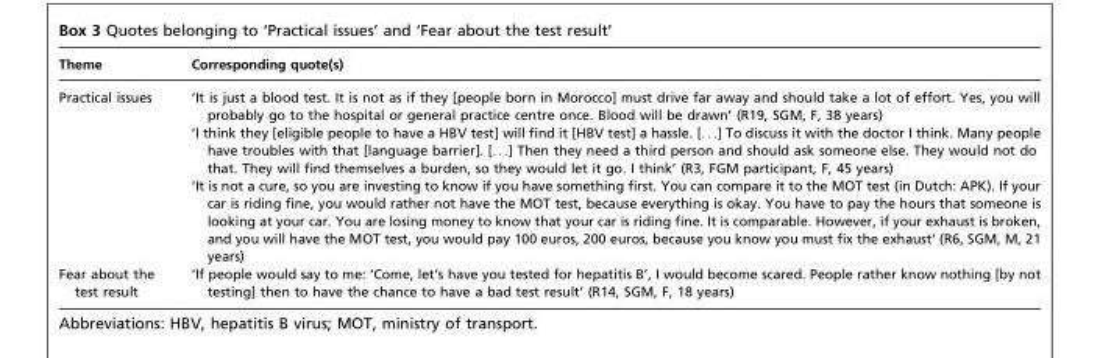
<table><thead><tr><td>Theme</td><td>Corresponding quote(s)</td></tr></thead><tbody><tr><td rowspan="3">Practical issues</td><td>‘It is just a blood test. It is not as if they [people born in Morocco] must drive far away and should take a lot of effort. Yes, you will probably go to the hospital or general practice centre once. Blood will be drawn’ (R19, SGM, F, 38 years)</td></tr><tr><td>‘I think they [eligible people to have a HBV test] will find it [HBV test] a hassle. [. . .] To discuss it with the doctor I think. Many people have troubles with that [language barrier]. [. . .] Then they need a third person and should ask someone else. They would not do that. They will find themselves a burden, so they would let it go. I think’ (R3, FGM participant, F, 45 years)</td></tr><tr><td>‘It is not a cure, so you are investing to know if you have something first. You can compare it to the MOT test (in Dutch: APK). If your car is riding fine, you would rather not have the MOT test, because everything is okay. You have to pay the hours that someone is looking at your car. You are losing money to know that your car is riding fine. It is comparable. However, if your exhaust is broken, and you will have the MOT test, you would pay 100 euros, 200 euros, because you know you must fix the exhaust’ (R6, SGM, M, 21 years)</td></tr><tr><td>Fear about the test result</td><td>‘If people would say to me: ‘Come, let’s have you tested for hepatitis B’, I would become scared. People rather know nothing [by not testing] then to have the chance to have a bad test result’ (R14, SGM, F, 18 years)</td></tr></tbody></table>